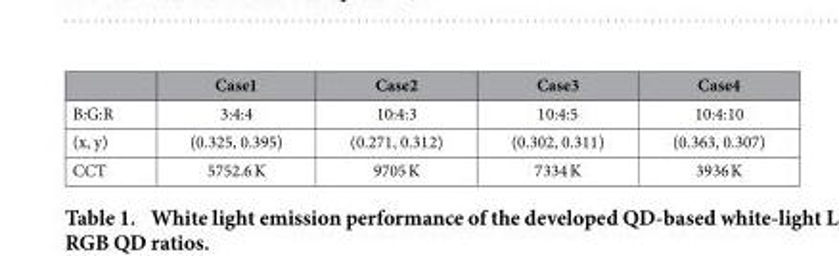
<table><thead><tr><td></td><td>Case1</td><td>Case2</td><td>Case3</td><td>Case4</td></tr></thead><tbody><tr><td>B:G:R</td><td>3:4:4</td><td>10:4:3</td><td>10:4:5</td><td>10:4:10</td></tr><tr><td>(x, y)</td><td>(0.325, 0.395)</td><td>(0.271, 0.312)</td><td>(0.302, 0.311)</td><td>(0.363, 0.307)</td></tr><tr><td>CCT</td><td>5752.6 K</td><td>9705 K</td><td>7334 K</td><td>3936 K</td></tr></tbody></table>